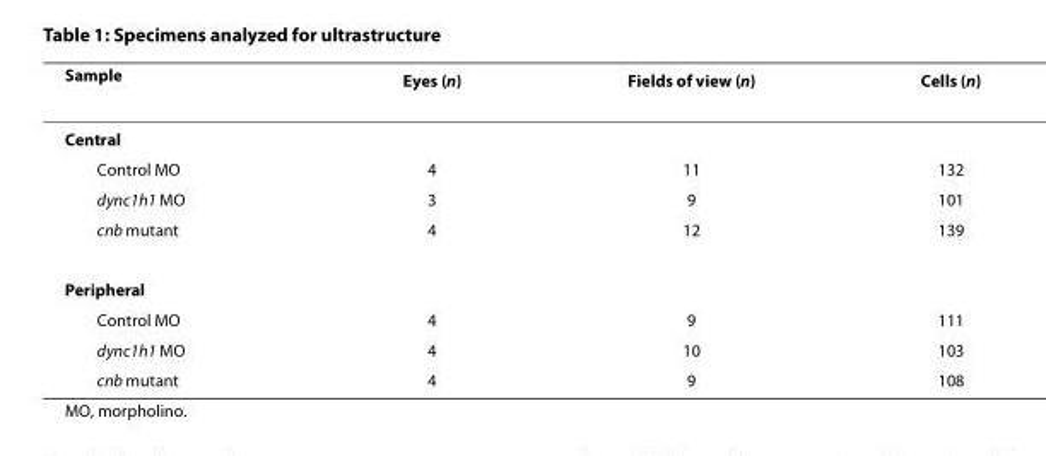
<table><thead><tr><td>Sample</td><td>Eyes (n)</td><td>Fields of view (n)</td><td>Cells (n)</td></tr></thead><tbody><tr><td colspan="4">Central</td></tr><tr><td>Control MO</td><td>4</td><td>11</td><td>132</td></tr><tr><td>dync1h1 MO</td><td>3</td><td>9</td><td>101</td></tr><tr><td>cnb mutant</td><td>4</td><td>12</td><td>139</td></tr><tr><td colspan="4">Peripheral</td></tr><tr><td>Control MO</td><td>4</td><td>9</td><td>111</td></tr><tr><td>dync1h1 MO</td><td>4</td><td>10</td><td>103</td></tr><tr><td>cnb mutant</td><td>4</td><td>9</td><td>108</td></tr></tbody></table>